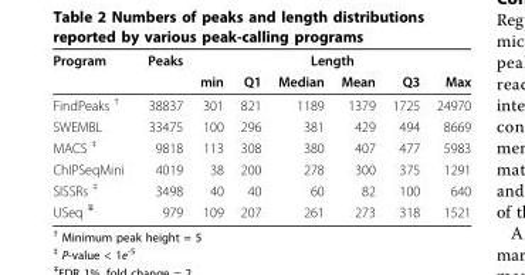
<table><thead><tr><td rowspan="2">Program</td><td rowspan="2">Peaks</td><td colspan="6">Length</td></tr><tr><td>min</td><td>Q1</td><td>Median</td><td>Mean</td><td>Q3</td><td>Max</td></tr></thead><tbody><tr><td>FindPeaks <sup>†</sup></td><td>38837</td><td>301</td><td>821</td><td>1189</td><td>1379</td><td>1725</td><td>24970</td></tr><tr><td>SWEMBL</td><td>33475</td><td>100</td><td>296</td><td>381</td><td>429</td><td>494</td><td>8669</td></tr><tr><td>MACS <sup>‡</sup></td><td>9818</td><td>113</td><td>308</td><td>380</td><td>407</td><td>477</td><td>5983</td></tr><tr><td>ChIPSeqMini</td><td>4019</td><td>38</td><td>200</td><td>278</td><td>300</td><td>375</td><td>1291</td></tr><tr><td>SISSRs <sup>‡</sup></td><td>3498</td><td>40</td><td>40</td><td>60</td><td>82</td><td>100</td><td>640</td></tr><tr><td>USeq <sup>∓</sup></td><td>979</td><td>109</td><td>207</td><td>261</td><td>273</td><td>318</td><td>1521</td></tr></tbody></table>